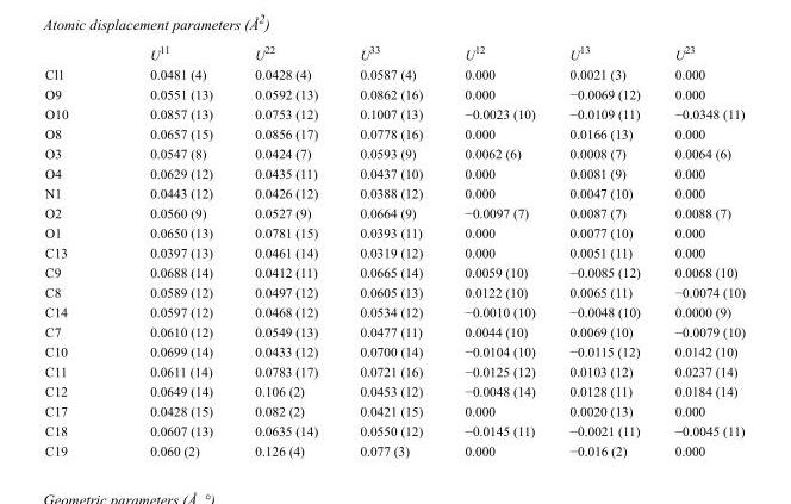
<table><thead><tr><td></td><td>U<sup>11</sup></td><td>U<sup>22</sup></td><td>U<sup>33</sup></td><td>U<sup>12</sup></td><td>U<sup>13</sup></td><td>U<sup>23</sup></td></tr></thead><tbody><tr><td>Cl1</td><td>0.0481 (4)</td><td>0.0428 (4)</td><td>0.0587 (4)</td><td>0.000</td><td>0.0021 (3)</td><td>0.000</td></tr><tr><td>O9</td><td>0.0551 (13)</td><td>0.0592 (13)</td><td>0.0862 (16)</td><td>0.000</td><td>−0.0069 (12)</td><td>0.000</td></tr><tr><td>O10</td><td>0.0857 (13)</td><td>0.0753 (12)</td><td>0.1007 (13)</td><td>−0.0023 (10)</td><td>−0.0109 (11)</td><td>−0.0348 (11)</td></tr><tr><td>O8</td><td>0.0657 (15)</td><td>0.0856 (17)</td><td>0.0778 (16)</td><td>0.000</td><td>0.0166 (13)</td><td>0.000</td></tr><tr><td>O3</td><td>0.0547 (8)</td><td>0.0424 (7)</td><td>0.0593 (9)</td><td>0.0062 (6)</td><td>0.0008 (7)</td><td>0.0064 (6)</td></tr><tr><td>O4</td><td>0.0629 (12)</td><td>0.0435 (11)</td><td>0.0437 (10)</td><td>0.000</td><td>0.0081 (9)</td><td>0.000</td></tr><tr><td>N1</td><td>0.0443 (12)</td><td>0.0426 (12)</td><td>0.0388 (12)</td><td>0.000</td><td>0.0047 (10)</td><td>0.000</td></tr><tr><td>O2</td><td>0.0560 (9)</td><td>0.0527 (9)</td><td>0.0664 (9)</td><td>−0.0097 (7)</td><td>0.0087 (7)</td><td>0.0088 (7)</td></tr><tr><td>O1</td><td>0.0650 (13)</td><td>0.0781 (15)</td><td>0.0393 (11)</td><td>0.000</td><td>0.0077 (10)</td><td>0.000</td></tr><tr><td>C13</td><td>0.0397 (13)</td><td>0.0461 (14)</td><td>0.0319 (12)</td><td>0.000</td><td>0.0051 (11)</td><td>0.000</td></tr><tr><td>C9</td><td>0.0688 (14)</td><td>0.0412 (11)</td><td>0.0665 (14)</td><td>0.0059 (10)</td><td>−0.0085 (12)</td><td>0.0068 (10)</td></tr><tr><td>C8</td><td>0.0589 (12)</td><td>0.0497 (12)</td><td>0.0605 (13)</td><td>0.0122 (10)</td><td>0.0065 (11)</td><td>−0.0074 (10)</td></tr><tr><td>C14</td><td>0.0597 (12)</td><td>0.0468 (12)</td><td>0.0534 (12)</td><td>−0.0010 (10)</td><td>−0.0048 (10)</td><td>0.0000 (9)</td></tr><tr><td>C7</td><td>0.0610 (12)</td><td>0.0549 (13)</td><td>0.0477 (11)</td><td>0.0044 (10)</td><td>0.0069 (10)</td><td>−0.0079 (10)</td></tr><tr><td>C10</td><td>0.0699 (14)</td><td>0.0433 (12)</td><td>0.0700 (14)</td><td>−0.0104 (10)</td><td>−0.0115 (12)</td><td>0.0142 (10)</td></tr><tr><td>C11</td><td>0.0611 (14)</td><td>0.0783 (17)</td><td>0.0721 (16)</td><td>−0.0125 (12)</td><td>0.0103 (12)</td><td>0.0237 (14)</td></tr><tr><td>C12</td><td>0.0649 (14)</td><td>0.106 (2)</td><td>0.0453 (12)</td><td>−0.0048 (14)</td><td>0.0128 (11)</td><td>0.0184 (14)</td></tr><tr><td>C17</td><td>0.0428 (15)</td><td>0.082 (2)</td><td>0.0421 (15)</td><td>0.000</td><td>0.0020 (13)</td><td>0.000</td></tr><tr><td>C18</td><td>0.0607 (13)</td><td>0.0635 (14)</td><td>0.0550 (12)</td><td>−0.0145 (11)</td><td>−0.0021 (11)</td><td>−0.0045 (11)</td></tr><tr><td>C19</td><td>0.060 (2)</td><td>0.126 (4)</td><td>0.077 (3)</td><td>0.000</td><td>−0.016 (2)</td><td>0.000</td></tr></tbody></table>